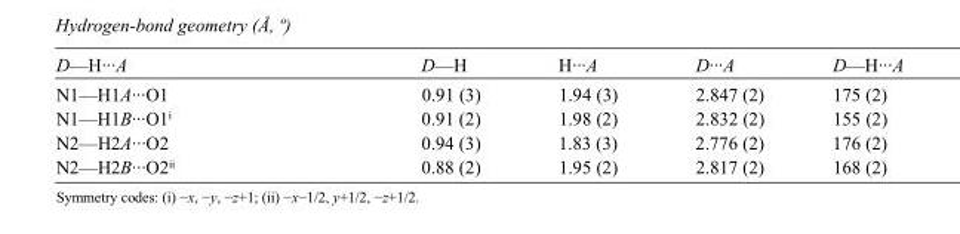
<table><tbody><tr><td>D—H···A</td><td>D—H</td><td>H···A</td><td>D···A</td><td>D—H···A</td></tr><tr><td>N1—H1A···O1</td><td>0.91 (3)</td><td>1.94 (3)</td><td>2.847 (2)</td><td>175 (2)</td></tr><tr><td>N1—H1B···O1<sup>i</sup></td><td>0.91 (2)</td><td>1.98 (2)</td><td>2.832 (2)</td><td>155 (2)</td></tr><tr><td>N2—H2A···O2</td><td>0.94 (3)</td><td>1.83 (3)</td><td>2.776 (2)</td><td>176 (2)</td></tr><tr><td>N2—H2B···O2<sup>ii</sup></td><td>0.88 (2)</td><td>1.95 (2)</td><td>2.817 (2)</td><td>168 (2)</td></tr></tbody></table>